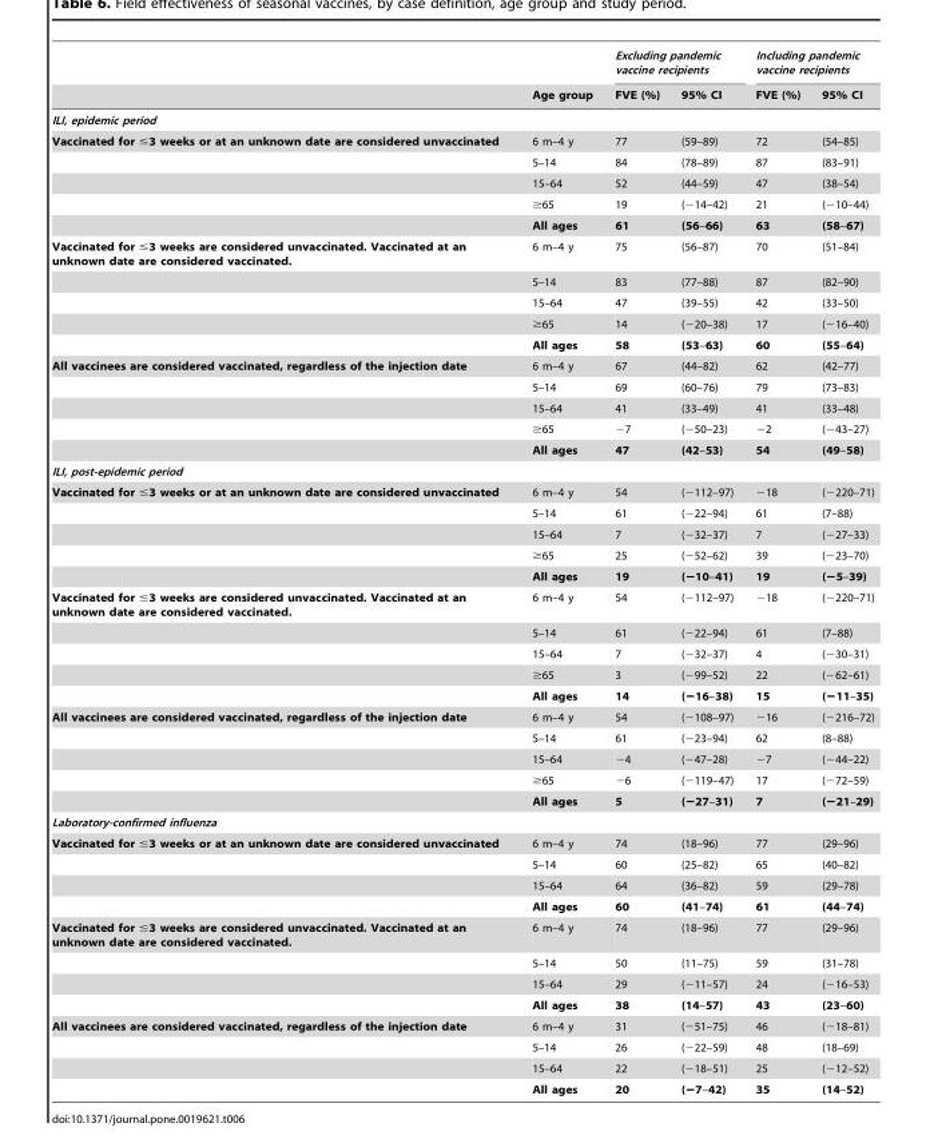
<table><thead><tr><td rowspan="2"></td><td rowspan="2">Age group</td><td colspan="2">Excluding pandemic vaccine recipients</td><td colspan="2">Including pandemic vaccine recipients</td></tr><tr><td>FVE (%)</td><td>95% CI</td><td>FVE (%)</td><td>95% CI</td></tr></thead><tbody><tr><td colspan="6">ILI, epidemic period</td></tr><tr><td rowspan="5">Vaccinated for ≤3 weeks or at an unknown date are considered unvaccinated</td><td>6 m–4 y</td><td>77</td><td>(59–89)</td><td>72</td><td>(54–85)</td></tr><tr><td>5–14</td><td>84</td><td>(78–89)</td><td>87</td><td>(83–91)</td></tr><tr><td>15–64</td><td>52</td><td>(44–59)</td><td>47</td><td>(38–54)</td></tr><tr><td>≥65</td><td>19</td><td>(−14–42)</td><td>21</td><td>(−10–44)</td></tr><tr><td>All ages</td><td>61</td><td>(56–66)</td><td>63</td><td>(58–67)</td></tr><tr><td rowspan="5">Vaccinated for ≤3 weeks are considered unvaccinated. Vaccinated at an unknown date are considered vaccinated.</td><td>6 m–4 y</td><td>75</td><td>(56–87)</td><td>70</td><td>(51–84)</td></tr><tr><td>5–14</td><td>83</td><td>(77–88)</td><td>87</td><td>(82–90)</td></tr><tr><td>15–64</td><td>47</td><td>(39–55)</td><td>42</td><td>(33–50)</td></tr><tr><td>≥65</td><td>14</td><td>(−20–38)</td><td>17</td><td>(−16–40)</td></tr><tr><td>All ages</td><td>58</td><td>(53–63)</td><td>60</td><td>(55–64)</td></tr><tr><td rowspan="5">All vaccinees are considered vaccinated, regardless of the injection date</td><td>6 m–4 y</td><td>67</td><td>(44–82)</td><td>62</td><td>(42–77)</td></tr><tr><td>5–14</td><td>69</td><td>(60–76)</td><td>79</td><td>(73–83)</td></tr><tr><td>15–64</td><td>41</td><td>(33–49)</td><td>41</td><td>(33–48)</td></tr><tr><td>≥65</td><td>−7</td><td>(−50–23)</td><td>−2</td><td>(−43–27)</td></tr><tr><td>All ages</td><td>47</td><td>(42–53)</td><td>54</td><td>(49–58)</td></tr><tr><td colspan="6">ILI, post-epidemic period</td></tr><tr><td rowspan="5">Vaccinated for ≤3 weeks or at an unknown date are considered unvaccinated</td><td>6 m–4 y</td><td>54</td><td>(−112–97)</td><td>−18</td><td>(−220–71)</td></tr><tr><td>5–14</td><td>61</td><td>(−22–94)</td><td>61</td><td>(7–88)</td></tr><tr><td>15–64</td><td>7</td><td>(−32–37)</td><td>7</td><td>(−27–33)</td></tr><tr><td>≥65</td><td>25</td><td>(−52–62)</td><td>39</td><td>(−23–70)</td></tr><tr><td>All ages</td><td>19</td><td>(−10–41)</td><td>19</td><td>(−5–39)</td></tr><tr><td rowspan="5">Vaccinated for ≤3 weeks are considered unvaccinated. Vaccinated at an unknown date are considered vaccinated.</td><td>6 m–4 y</td><td>54</td><td>(−112–97)</td><td>−18</td><td>(−220–71)</td></tr><tr><td>5–14</td><td>61</td><td>(−22–94)</td><td>61</td><td>(7–88)</td></tr><tr><td>15–64</td><td>7</td><td>(−32–37)</td><td>4</td><td>(−30–31)</td></tr><tr><td>≥65</td><td>3</td><td>(−99–52)</td><td>22</td><td>(−62–61)</td></tr><tr><td>All ages</td><td>14</td><td>(−16–38)</td><td>15</td><td>(−11–35)</td></tr><tr><td rowspan="5">All vaccinees are considered vaccinated, regardless of the injection date</td><td>6 m–4 y</td><td>54</td><td>(−108–97)</td><td>−16</td><td>(−216–72)</td></tr><tr><td>5–14</td><td>61</td><td>(−23–94)</td><td>62</td><td>(8–88)</td></tr><tr><td>15–64</td><td>−4</td><td>(−47–28)</td><td>−7</td><td>(−44–22)</td></tr><tr><td>≥65</td><td>−6</td><td>(−119–47)</td><td>17</td><td>(−72–59)</td></tr><tr><td>All ages</td><td>5</td><td>(−27–31)</td><td>7</td><td>(−21–29)</td></tr><tr><td colspan="6">Laboratory-confirmed influenza</td></tr><tr><td rowspan="4">Vaccinated for ≤3 weeks or at an unknown date are considered unvaccinated</td><td>6 m–4 y</td><td>74</td><td>(18–96)</td><td>77</td><td>(29–96)</td></tr><tr><td>5–14</td><td>60</td><td>(25–82)</td><td>65</td><td>(40–82)</td></tr><tr><td>15–64</td><td>64</td><td>(36–82)</td><td>59</td><td>(29–78)</td></tr><tr><td>All ages</td><td>60</td><td>(41–74)</td><td>61</td><td>(44–74)</td></tr><tr><td rowspan="4">Vaccinated for ≤3 weeks are considered unvaccinated. Vaccinated at an unknown date are considered vaccinated.</td><td>6 m–4 y</td><td>74</td><td>(18–96)</td><td>77</td><td>(29–96)</td></tr><tr><td>5–14</td><td>50</td><td>(11–75)</td><td>59</td><td>(31–78)</td></tr><tr><td>15–64</td><td>29</td><td>(−11–57)</td><td>24</td><td>(−16–53)</td></tr><tr><td>All ages</td><td>38</td><td>(14–57)</td><td>43</td><td>(23–60)</td></tr><tr><td rowspan="4">All vaccinees are considered vaccinated, regardless of the injection date</td><td>6 m–4 y</td><td>31</td><td>(−51–75)</td><td>46</td><td>(−18–81)</td></tr><tr><td>5–14</td><td>26</td><td>(−22–59)</td><td>48</td><td>(18–69)</td></tr><tr><td>15–64</td><td>22</td><td>(−18–51)</td><td>25</td><td>(−12–52)</td></tr><tr><td>All ages</td><td>20</td><td>(−7–42)</td><td>35</td><td>(14–52)</td></tr></tbody></table>